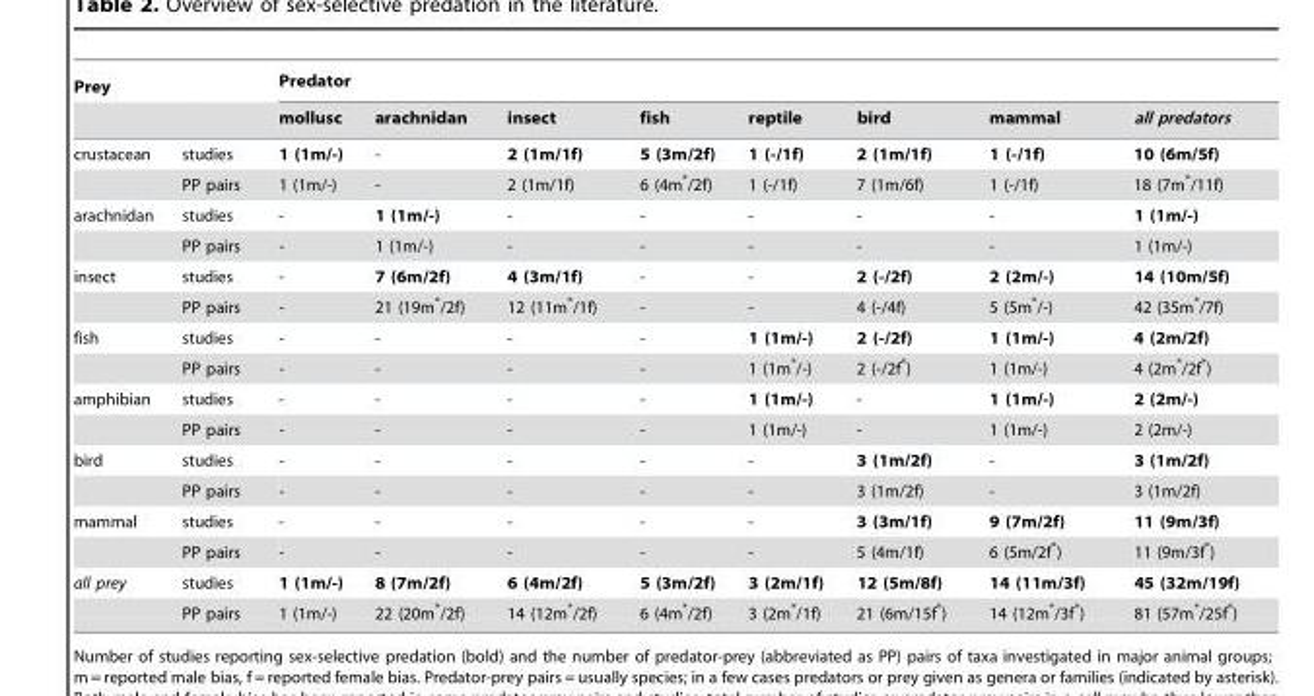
<table><thead><tr><td colspan="2">Prey</td><td colspan="8">Predator</td></tr><tr><td></td><td></td><td>mollusc</td><td>arachnidan</td><td>insect</td><td>fish</td><td>reptile</td><td>bird</td><td>mammal</td><td>all predators</td></tr></thead><tbody><tr><td rowspan="2">crustacean</td><td>studies</td><td>1 (1m/-)</td><td>-</td><td>2 (1m/1f)</td><td>5 (3m/2f)</td><td>1 (-/1f)</td><td>2 (1m/1f)</td><td>1 (-/1f)</td><td>10 (6m/5f)</td></tr><tr><td>PP pairs</td><td>1 (1m/-)</td><td>-</td><td>2 (1m/1f)</td><td>6 (4m*/2f)</td><td>1 (-/1f)</td><td>7 (1m/6f)</td><td>1 (-/1f)</td><td>18 (7m*/11f)</td></tr><tr><td rowspan="2">arachnidan</td><td>studies</td><td>-</td><td>1 (1m/-)</td><td>-</td><td>-</td><td>-</td><td>-</td><td>-</td><td>1 (1m/-)</td></tr><tr><td>PP pairs</td><td>-</td><td>1 (1m/-)</td><td>-</td><td>-</td><td>-</td><td>-</td><td>-</td><td>1 (1m/-)</td></tr><tr><td rowspan="2">insect</td><td>studies</td><td>-</td><td>7 (6m/2f)</td><td>4 (3m/1f)</td><td>-</td><td>-</td><td>2 (-/2f)</td><td>2 (2m/-)</td><td>14 (10m/5f)</td></tr><tr><td>PP pairs</td><td>-</td><td>21 (19m*/2f)</td><td>12 (11m*/1f)</td><td>-</td><td>-</td><td>4 (-/4f)</td><td>5 (5m*/-)</td><td>42 (35m*/7f)</td></tr><tr><td rowspan="2">fish</td><td>studies</td><td>-</td><td>-</td><td>-</td><td>-</td><td>1 (1m/-)</td><td>2 (-/2f)</td><td>1 (1m/-)</td><td>4 (2m/2f)</td></tr><tr><td>PP pairs</td><td>-</td><td>-</td><td>-</td><td>-</td><td>1 (1m*/-)</td><td>2 (-/2f*)</td><td>1 (1m/-)</td><td>4 (2m*/2f*)</td></tr><tr><td rowspan="2">amphibian</td><td>studies</td><td>-</td><td>-</td><td>-</td><td>-</td><td>1 (1m/-)</td><td>-</td><td>1 (1m/-)</td><td>2 (2m/-)</td></tr><tr><td>PP pairs</td><td>-</td><td>-</td><td>-</td><td>-</td><td>1 (1m/-)</td><td>-</td><td>1 (1m/-)</td><td>2 (2m/-)</td></tr><tr><td rowspan="2">bird</td><td>studies</td><td>-</td><td>-</td><td>-</td><td>-</td><td>-</td><td>3 (1m/2f)</td><td>-</td><td>3 (1m/2f)</td></tr><tr><td>PP pairs</td><td>-</td><td>-</td><td>-</td><td>-</td><td>-</td><td>3 (1m/2f)</td><td>-</td><td>3 (1m/2f)</td></tr><tr><td rowspan="2">mammal</td><td>studies</td><td>-</td><td>-</td><td>-</td><td>-</td><td>-</td><td>3 (3m/1f)</td><td>9 (7m/2f)</td><td>11 (9m/3f)</td></tr><tr><td>PP pairs</td><td>-</td><td>-</td><td>-</td><td>-</td><td>-</td><td>5 (4m/1f)</td><td>6 (5m/2f*)</td><td>11 (9m/3f*)</td></tr><tr><td rowspan="2">all prey</td><td>studies</td><td>1 (1m/-)</td><td>8 (7m/2f)</td><td>6 (4m/2f)</td><td>5 (3m/2f)</td><td>3 (2m/1f)</td><td>12 (5m/8f)</td><td>14 (11m/3f)</td><td>45 (32m/19f)</td></tr><tr><td>PP pairs</td><td>1 (1m/-)</td><td>22 (20m*/2f)</td><td>14 (12m*/2f)</td><td>6 (4m*/2f)</td><td>3 (2m*/1f)</td><td>21 (6m/15f*)</td><td>14 (12m*/3f*)</td><td>81 (57m*/25f*)</td></tr></tbody></table>